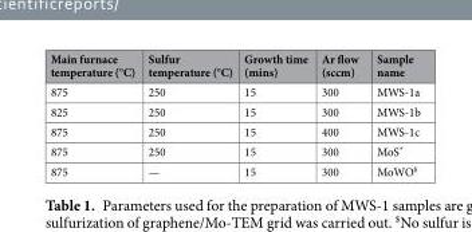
<table><thead><tr><td>Main furnace temperature (°C)</td><td>Sulfur temperature (°C)</td><td>Growth time (mins)</td><td>Ar flow (sccm)</td><td>Sample name</td></tr></thead><tbody><tr><td>875</td><td>250</td><td>15</td><td>300</td><td>MWS-1a</td></tr><tr><td>825</td><td>250</td><td>15</td><td>300</td><td>MWS-1b</td></tr><tr><td>875</td><td>250</td><td>15</td><td>400</td><td>MWS-1c</td></tr><tr><td>875</td><td>250</td><td>15</td><td>300</td><td>MoS*</td></tr><tr><td>875</td><td>—</td><td>15</td><td>300</td><td>MoWO<sup>$</sup></td></tr></tbody></table>